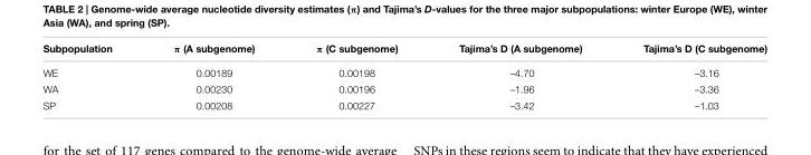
<table><thead><tr><td>Subpopulation</td><td>π (A subgenome)</td><td>π (C subgenome)</td><td>Tajima’s D (A subgenome)</td><td>Tajima’s D (C subgenome)</td></tr></thead><tbody><tr><td>WE</td><td>0.00189</td><td>0.00198</td><td>–4.70</td><td>–3.16</td></tr><tr><td>WA</td><td>0.00230</td><td>0.00196</td><td>–1.96</td><td>–3.36</td></tr><tr><td>SP</td><td>0.00208</td><td>0.00227</td><td>–3.42</td><td>–1.03</td></tr></tbody></table>